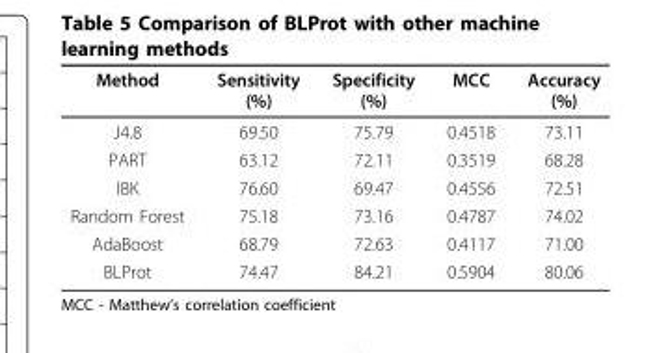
<table><thead><tr><td>Method</td><td>Sensitivity (%)</td><td>Specificity (%)</td><td>MCC</td><td>Accuracy (%)</td></tr></thead><tbody><tr><td>J4.8</td><td>69.50</td><td>75.79</td><td>0.4518</td><td>73.11</td></tr><tr><td>PART</td><td>63.12</td><td>72.11</td><td>0.3519</td><td>68.28</td></tr><tr><td>IBK</td><td>76.60</td><td>69.47</td><td>0.4556</td><td>72.51</td></tr><tr><td>Random Forest</td><td>75.18</td><td>73.16</td><td>0.4787</td><td>74.02</td></tr><tr><td>AdaBoost</td><td>68.79</td><td>72.63</td><td>0.4117</td><td>71.00</td></tr><tr><td>BLProt</td><td>74.47</td><td>84.21</td><td>0.5904</td><td>80.06</td></tr></tbody></table>